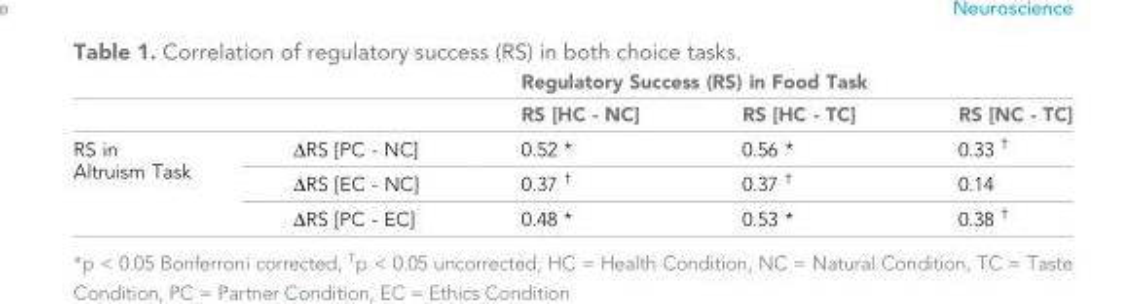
<table><thead><tr><td rowspan="2"></td><td rowspan="2"></td><td colspan="3">Regulatory Success (RS) in Food Task</td></tr><tr><td>RS [HC - NC]</td><td>RS [HC - TC]</td><td>RS [NC - TC]</td></tr></thead><tbody><tr><td rowspan="3">RS in Altruism Task</td><td>ΔRS [PC - NC]</td><td>0.52 *</td><td>0.56 *</td><td>0.33 <sup>†</sup></td></tr><tr><td>ΔRS [EC - NC]</td><td>0.37 <sup>†</sup></td><td>0.37 <sup>†</sup></td><td>0.14</td></tr><tr><td>ΔRS [PC - EC]</td><td>0.48 *</td><td>0.53 *</td><td>0.38 <sup>†</sup></td></tr></tbody></table>